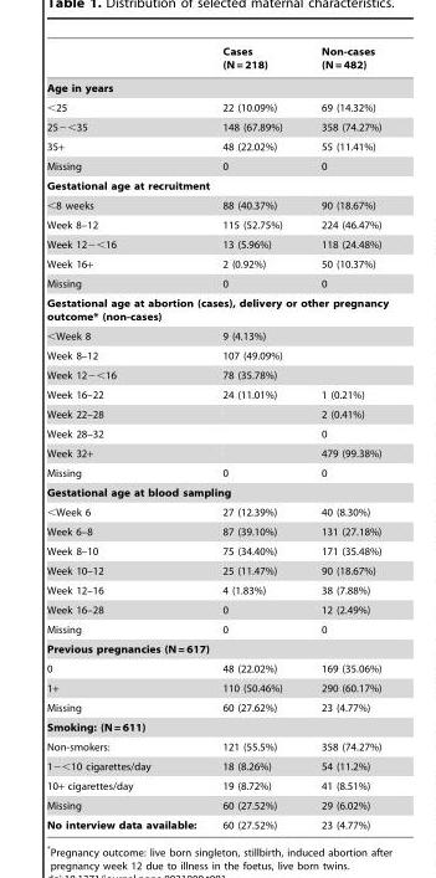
<table><thead><tr><td></td><td>Cases (N = 218)</td><td>Non-cases (N = 482)</td></tr></thead><tbody><tr><td colspan="3">Age in years</td></tr><tr><td>&lt;25</td><td>22 (10.09%)</td><td>69 (14.32%)</td></tr><tr><td>25−&lt;35</td><td>148 (67.89%)</td><td>358 (74.27%)</td></tr><tr><td>35+</td><td>48 (22.02%)</td><td>55 (11.41%)</td></tr><tr><td>Missing</td><td>0</td><td>0</td></tr><tr><td colspan="3">Gestational age at recruitment</td></tr><tr><td>&lt;8 weeks</td><td>88 (40.37%)</td><td>90 (18.67%)</td></tr><tr><td>Week 8–12</td><td>115 (52.75%)</td><td>224 (46.47%)</td></tr><tr><td>Week 12−&lt;16</td><td>13 (5.96%)</td><td>118 (24.48%)</td></tr><tr><td>Week 16+</td><td>2 (0.92%)</td><td>50 (10.37%)</td></tr><tr><td>Missing</td><td>0</td><td>0</td></tr><tr><td colspan="3">Gestational age at abortion (cases), delivery or other pregnancy outcome* (non-cases)</td></tr><tr><td>&lt;Week 8</td><td>9 (4.13%)</td><td></td></tr><tr><td>Week 8–12</td><td>107 (49.09%)</td><td></td></tr><tr><td>Week 12−&lt;16</td><td>78 (35.78%)</td><td></td></tr><tr><td>Week 16–22</td><td>24 (11.01%)</td><td>1 (0.21%)</td></tr><tr><td>Week 22–28</td><td></td><td>2 (0.41%)</td></tr><tr><td>Week 28–32</td><td></td><td>0</td></tr><tr><td>Week 32+</td><td></td><td>479 (99.38%)</td></tr><tr><td>Missing</td><td>0</td><td>0</td></tr><tr><td colspan="3">Gestational age at blood sampling</td></tr><tr><td>&lt;Week 6</td><td>27 (12.39%)</td><td>40 (8.30%)</td></tr><tr><td>Week 6–8</td><td>87 (39.10%)</td><td>131 (27.18%)</td></tr><tr><td>Week 8–10</td><td>75 (34.40%)</td><td>171 (35.48%)</td></tr><tr><td>Week 10–12</td><td>25 (11.47%)</td><td>90 (18.67%)</td></tr><tr><td>Week 12–16</td><td>4 (1.83%)</td><td>38 (7.88%)</td></tr><tr><td>Week 16–28</td><td>0</td><td>12 (2.49%)</td></tr><tr><td>Missing</td><td>0</td><td>0</td></tr><tr><td colspan="3">Previous pregnancies (N = 617)</td></tr><tr><td>0</td><td>48 (22.02%)</td><td>169 (35.06%)</td></tr><tr><td>1+</td><td>110 (50.46%)</td><td>290 (60.17%)</td></tr><tr><td>Missing</td><td>60 (27.62%)</td><td>23 (4.77%)</td></tr><tr><td colspan="3">Smoking: (N = 611)</td></tr><tr><td>Non-smokers:</td><td>121 (55.5%)</td><td>358 (74.27%)</td></tr><tr><td>1−&lt;10 cigarettes/day</td><td>18 (8.26%)</td><td>54 (11.2%)</td></tr><tr><td>10+ cigarettes/day</td><td>19 (8.72%)</td><td>41 (8.51%)</td></tr><tr><td>Missing</td><td>60 (27.52%)</td><td>29 (6.02%)</td></tr><tr><td>No interview data available:</td><td>60 (27.52%)</td><td>23 (4.77%)</td></tr></tbody></table>